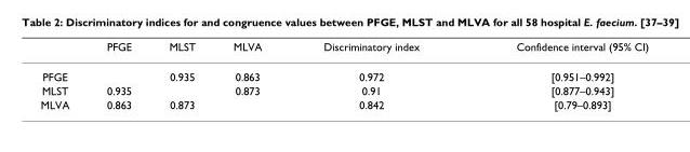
<table><thead><tr><td></td><td>PFGE</td><td>MLST</td><td>MLVA</td><td>Discriminatory index</td><td>Confidence interval (95% CI)</td></tr></thead><tbody><tr><td>PFGE</td><td></td><td>0.935</td><td>0.863</td><td>0.972</td><td>[0.951–0.992]</td></tr><tr><td>MLST</td><td>0.935</td><td></td><td>0.873</td><td>0.91</td><td>[0.877–0.943]</td></tr><tr><td>MLVA</td><td>0.863</td><td>0.873</td><td></td><td>0.842</td><td>[0.79–0.893]</td></tr></tbody></table>